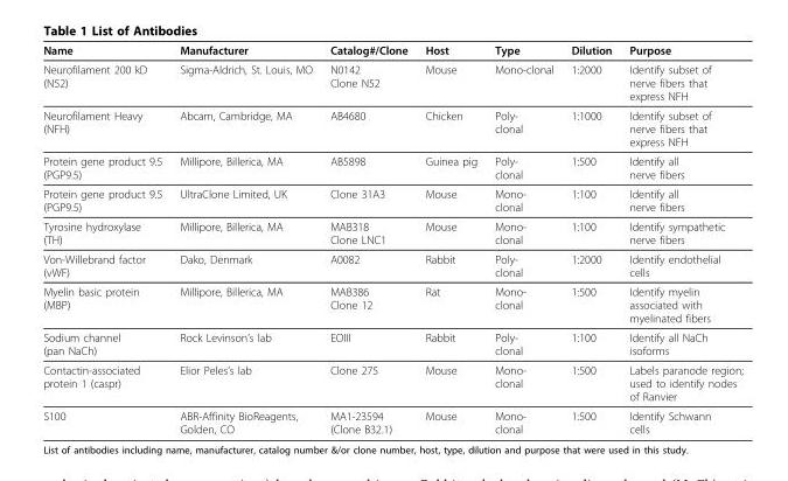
<table><thead><tr><td>Name</td><td>Manufacturer</td><td>Catalog#/Clone</td><td>Host</td><td>Type</td><td>Dilution</td><td>Purpose</td></tr></thead><tbody><tr><td>Neurofilament 200 kD (N52)</td><td>Sigma-Aldrich, St. Louis, MO</td><td>N0142 Clone N52</td><td>Mouse</td><td>Mono-clonal</td><td>1:2000</td><td>Identify subset of nerve fibers that express NFH</td></tr><tr><td>Neurofilament Heavy (NFH)</td><td>Abcam, Cambridge, MA</td><td>AB4680</td><td>Chicken</td><td>Poly- clonal</td><td>1:1000</td><td>Identify subset of nerve fibers that express NFH</td></tr><tr><td>Protein gene product 9.5 (PGP9.5)</td><td>Millipore, Billerica, MA</td><td>AB5898</td><td>Guinea pig</td><td>Poly- clonal</td><td>1:500</td><td>Identify all nerve fibers</td></tr><tr><td>Protein gene product 9.5 (PGP9.5)</td><td>UltraClone Limited, UK</td><td>Clone 31A3</td><td>Mouse</td><td>Mono- clonal</td><td>1:100</td><td>Identify all nerve fibers</td></tr><tr><td>Tyrosine hydroxylase (TH)</td><td>Millipore, Billerica, MA</td><td>MAB318 Clone LNC1</td><td>Mouse</td><td>Mono- clonal</td><td>1:100</td><td>Identify sympathetic nerve fibers</td></tr><tr><td>Von-Willebrand factor (vWF)</td><td>Dako, Denmark</td><td>A0082</td><td>Rabbit</td><td>Poly- clonal</td><td>1:2000</td><td>Identify endothelial cells</td></tr><tr><td>Myelin basic protein (MBP)</td><td>Millipore, Billerica, MA</td><td>MAB386 Clone 12</td><td>Rat</td><td>Mono- clonal</td><td>1:500</td><td>Identify myelin associated with myelinated fibers</td></tr><tr><td>Sodium channel (pan NaCh)</td><td>Rock Levinson’s lab</td><td>EOIII</td><td>Rabbit</td><td>Poly- clonal</td><td>1:100</td><td>Identify all NaCh isoforms</td></tr><tr><td>Contactin-associated protein 1 (caspr)</td><td>Elior Peles’s lab</td><td>Clone 275</td><td>Mouse</td><td>Mono- clonal</td><td>1:500</td><td>Labels paranode region; used to identify nodes of Ranvier</td></tr><tr><td>S100</td><td>ABR-Affinity BioReagents, Golden, CO</td><td>MA1-23594 (Clone B32.1)</td><td>Mouse</td><td>Mono- clonal</td><td>1:500</td><td>Identify Schwann cells</td></tr></tbody></table>